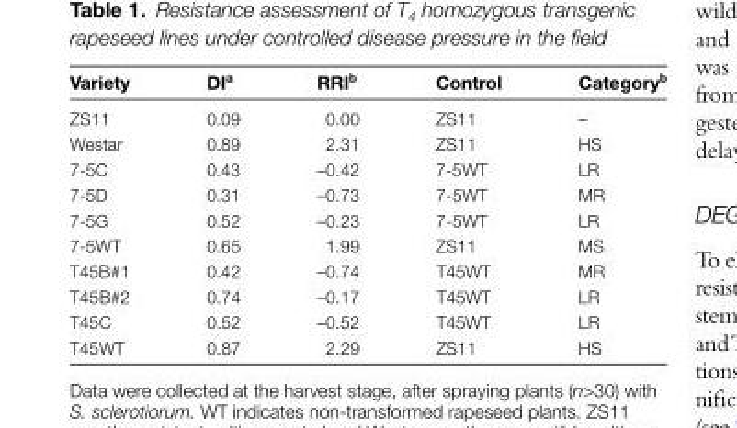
<table><thead><tr><td>Variety</td><td>DI<sup>a</sup></td><td>RRI<sup>b</sup></td><td>Control</td><td>Category<sup>b</sup></td></tr></thead><tbody><tr><td>ZS11</td><td>0.09</td><td>0.00</td><td>ZS11</td><td>–</td></tr><tr><td>Westar</td><td>0.89</td><td>2.31</td><td>ZS11</td><td>HS</td></tr><tr><td>7-5C</td><td>0.43</td><td>–0.42</td><td>7-5WT</td><td>LR</td></tr><tr><td>7-5D</td><td>0.31</td><td>–0.73</td><td>7-5WT</td><td>MR</td></tr><tr><td>7-5G</td><td>0.52</td><td>–0.23</td><td>7-5WT</td><td>LR</td></tr><tr><td>7-5WT</td><td>0.65</td><td>1.99</td><td>ZS11</td><td>MS</td></tr><tr><td>T45B#1</td><td>0.42</td><td>–0.74</td><td>T45WT</td><td>MR</td></tr><tr><td>T45B#2</td><td>0.74</td><td>–0.17</td><td>T45WT</td><td>LR</td></tr><tr><td>T45C</td><td>0.52</td><td>–0.52</td><td>T45WT</td><td>LR</td></tr><tr><td>T45WT</td><td>0.87</td><td>2.29</td><td>ZS11</td><td>HS</td></tr></tbody></table>